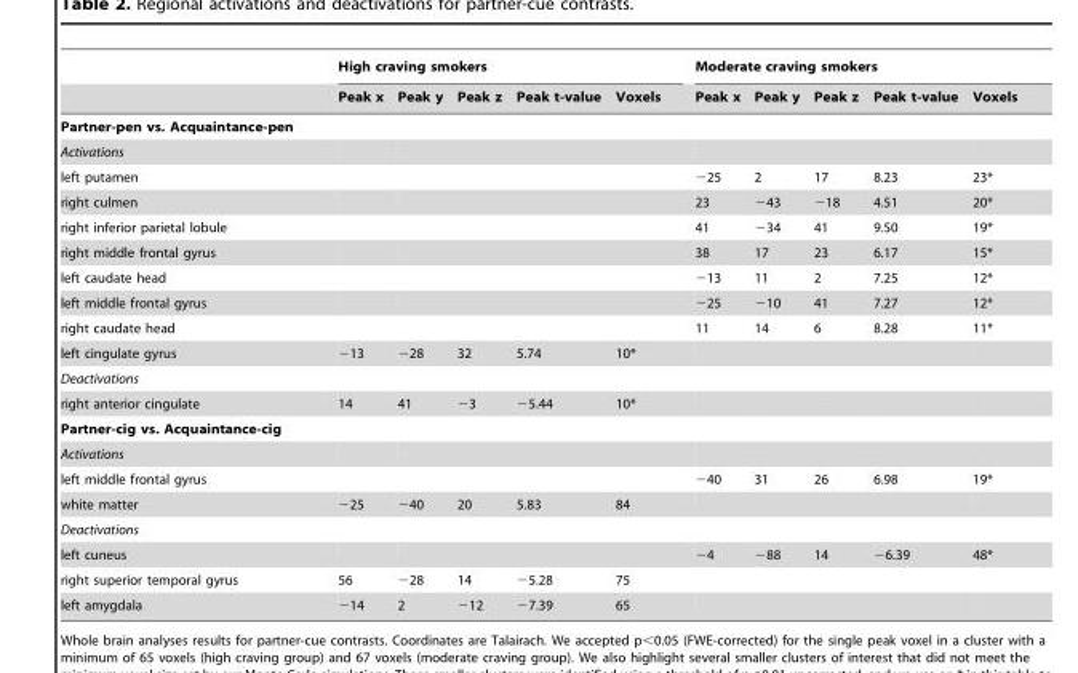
<table><thead><tr><td rowspan="2"></td><td colspan="5">High craving smokers</td><td colspan="5">Moderate craving smokers</td></tr><tr><td>Peak x</td><td>Peak y</td><td>Peak z</td><td>Peak t-value</td><td>Voxels</td><td>Peak x</td><td>Peak y</td><td>Peak z</td><td>Peak t-value</td><td>Voxels</td></tr></thead><tbody><tr><td colspan="11">Partner-pen vs. Acquaintance-pen</td></tr><tr><td colspan="11">Activations</td></tr><tr><td>left putamen</td><td></td><td></td><td></td><td></td><td></td><td>−25</td><td>2</td><td>17</td><td>8.23</td><td>23*</td></tr><tr><td>right culmen</td><td></td><td></td><td></td><td></td><td></td><td>23</td><td>−43</td><td>−18</td><td>4.51</td><td>20*</td></tr><tr><td>right inferior parietal lobule</td><td></td><td></td><td></td><td></td><td></td><td>41</td><td>−34</td><td>41</td><td>9.50</td><td>19*</td></tr><tr><td>right middle frontal gyrus</td><td></td><td></td><td></td><td></td><td></td><td>38</td><td>17</td><td>23</td><td>6.17</td><td>15*</td></tr><tr><td>left caudate head</td><td></td><td></td><td></td><td></td><td></td><td>−13</td><td>11</td><td>2</td><td>7.25</td><td>12*</td></tr><tr><td>left middle frontal gyrus</td><td></td><td></td><td></td><td></td><td></td><td>−25</td><td>−10</td><td>41</td><td>7.27</td><td>12*</td></tr><tr><td>right caudate head</td><td></td><td></td><td></td><td></td><td></td><td>11</td><td>14</td><td>6</td><td>8.28</td><td>11*</td></tr><tr><td>left cingulate gyrus</td><td>−13</td><td>−28</td><td>32</td><td>5.74</td><td>10*</td><td></td><td></td><td></td><td></td><td></td></tr><tr><td colspan="11">Deactivations</td></tr><tr><td>right anterior cingulate</td><td>14</td><td>41</td><td>−3</td><td>−5.44</td><td>10*</td><td></td><td></td><td></td><td></td><td></td></tr><tr><td colspan="11">Partner-cig vs. Acquaintance-cig</td></tr><tr><td colspan="11">Activations</td></tr><tr><td>left middle frontal gyrus</td><td></td><td></td><td></td><td></td><td></td><td>−40</td><td>31</td><td>26</td><td>6.98</td><td>19*</td></tr><tr><td>white matter</td><td>−25</td><td>−40</td><td>20</td><td>5.83</td><td>84</td><td></td><td></td><td></td><td></td><td></td></tr><tr><td colspan="11">Deactivations</td></tr><tr><td>left cuneus</td><td></td><td></td><td></td><td></td><td></td><td>−4</td><td>−88</td><td>14</td><td>−6.39</td><td>48*</td></tr><tr><td>right superior temporal gyrus</td><td>56</td><td>−28</td><td>14</td><td>−5.28</td><td>75</td><td></td><td></td><td></td><td></td><td></td></tr><tr><td>left amygdala</td><td>−14</td><td>2</td><td>−12</td><td>−7.39</td><td>65</td><td></td><td></td><td></td><td></td><td></td></tr></tbody></table>